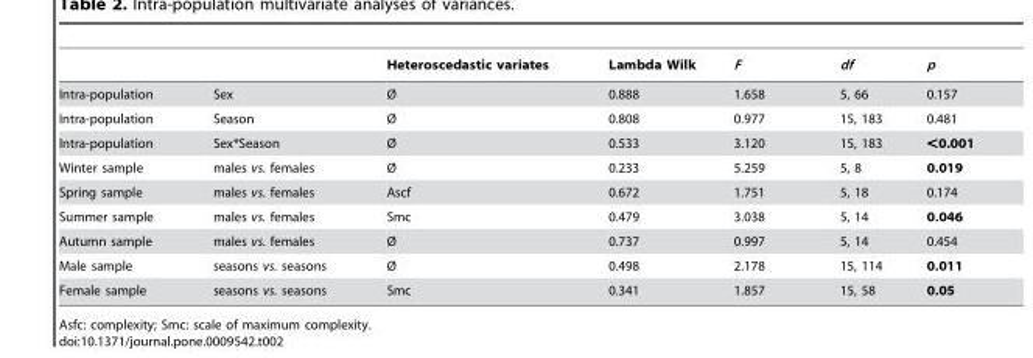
<table><thead><tr><td></td><td></td><td>Heteroscedastic variates</td><td>Lambda Wilk</td><td>F</td><td>df</td><td>p</td></tr></thead><tbody><tr><td>Intra-population</td><td>Sex</td><td>Ø</td><td>0.888</td><td>1.658</td><td>5, 66</td><td>0.157</td></tr><tr><td>Intra-population</td><td>Season</td><td>Ø</td><td>0.808</td><td>0.977</td><td>15, 183</td><td>0.481</td></tr><tr><td>Intra-population</td><td>Sex*Season</td><td>Ø</td><td>0.533</td><td>3.120</td><td>15, 183</td><td>&lt;0.001</td></tr><tr><td>Winter sample</td><td>males vs. females</td><td>Ø</td><td>0.233</td><td>5.259</td><td>5, 8</td><td>0.019</td></tr><tr><td>Spring sample</td><td>males vs. females</td><td>Ascf</td><td>0.672</td><td>1.751</td><td>5, 18</td><td>0.174</td></tr><tr><td>Summer sample</td><td>males vs. females</td><td>Smc</td><td>0.479</td><td>3.038</td><td>5, 14</td><td>0.046</td></tr><tr><td>Autumn sample</td><td>males vs. females</td><td>Ø</td><td>0.737</td><td>0.997</td><td>5, 14</td><td>0.454</td></tr><tr><td>Male sample</td><td>seasons vs. seasons</td><td>Ø</td><td>0.498</td><td>2.178</td><td>15, 114</td><td>0.011</td></tr><tr><td>Female sample</td><td>seasons vs. seasons</td><td>Smc</td><td>0.341</td><td>1.857</td><td>15, 58</td><td>0.05</td></tr></tbody></table>